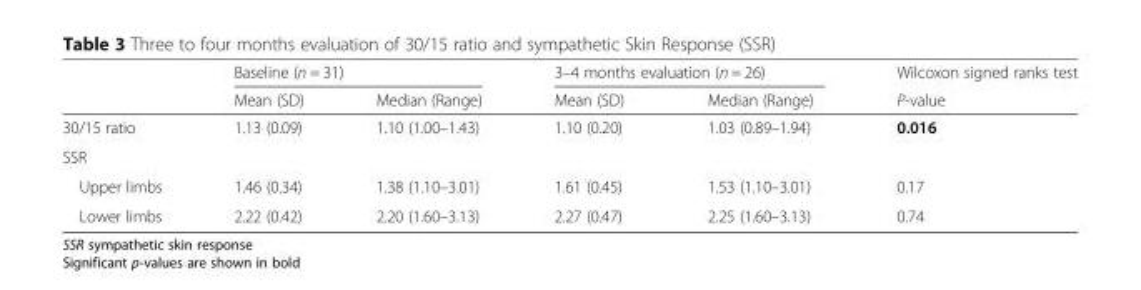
<table><thead><tr><td rowspan="2"></td><td colspan="2">Baseline (n = 31)</td><td colspan="2">3–4 months evaluation (n = 26)</td><td rowspan="2">Wilcoxon signed ranks test P-value</td></tr><tr><td>Mean (SD)</td><td>Median (Range)</td><td>Mean (SD)</td><td>Median (Range)</td></tr></thead><tbody><tr><td>30/15 ratio</td><td>1.13 (0.09)</td><td>1.10 (1.00–1.43)</td><td>1.10 (0.20)</td><td>1.03 (0.89–1.94)</td><td>0.016</td></tr><tr><td colspan="6">SSR</td></tr><tr><td>Upper limbs</td><td>1.46 (0.34)</td><td>1.38 (1.10–3.01)</td><td>1.61 (0.45)</td><td>1.53 (1.10–3.01)</td><td>0.17</td></tr><tr><td>Lower limbs</td><td>2.22 (0.42)</td><td>2.20 (1.60–3.13)</td><td>2.27 (0.47)</td><td>2.25 (1.60–3.13)</td><td>0.74</td></tr></tbody></table>